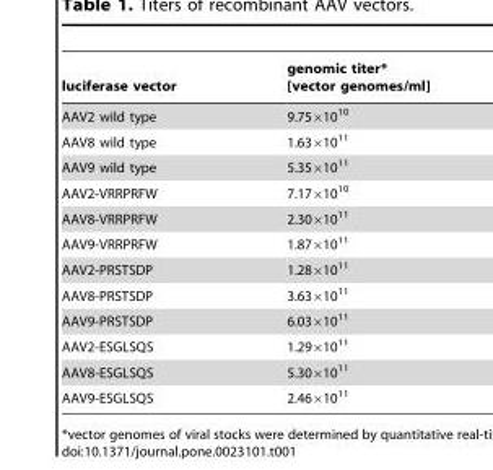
<table><thead><tr><td>luciferase vector</td><td>genomic titer* [vector genomes/ml]</td></tr></thead><tbody><tr><td>AAV2 wild type</td><td>9.75×10<sup>10</sup></td></tr><tr><td>AAV8 wild type</td><td>1.63×10<sup>11</sup></td></tr><tr><td>AAV9 wild type</td><td>5.35×10<sup>11</sup></td></tr><tr><td>AAV2-VRRPRFW</td><td>7.17×10<sup>10</sup></td></tr><tr><td>AAV8-VRRPRFW</td><td>2.30×10<sup>11</sup></td></tr><tr><td>AAV9-VRRPRFW</td><td>1.87×10<sup>11</sup></td></tr><tr><td>AAV2-PRSTSDP</td><td>1.28×10<sup>11</sup></td></tr><tr><td>AAV8-PRSTSDP</td><td>3.63×10<sup>11</sup></td></tr><tr><td>AAV9-PRSTSDP</td><td>6.03×10<sup>11</sup></td></tr><tr><td>AAV2-ESGLSQS</td><td>1.29×10<sup>11</sup></td></tr><tr><td>AAV8-ESGLSQS</td><td>5.30×10<sup>11</sup></td></tr><tr><td>AAV9-ESGLSQS</td><td>2.46×10<sup>11</sup></td></tr></tbody></table>